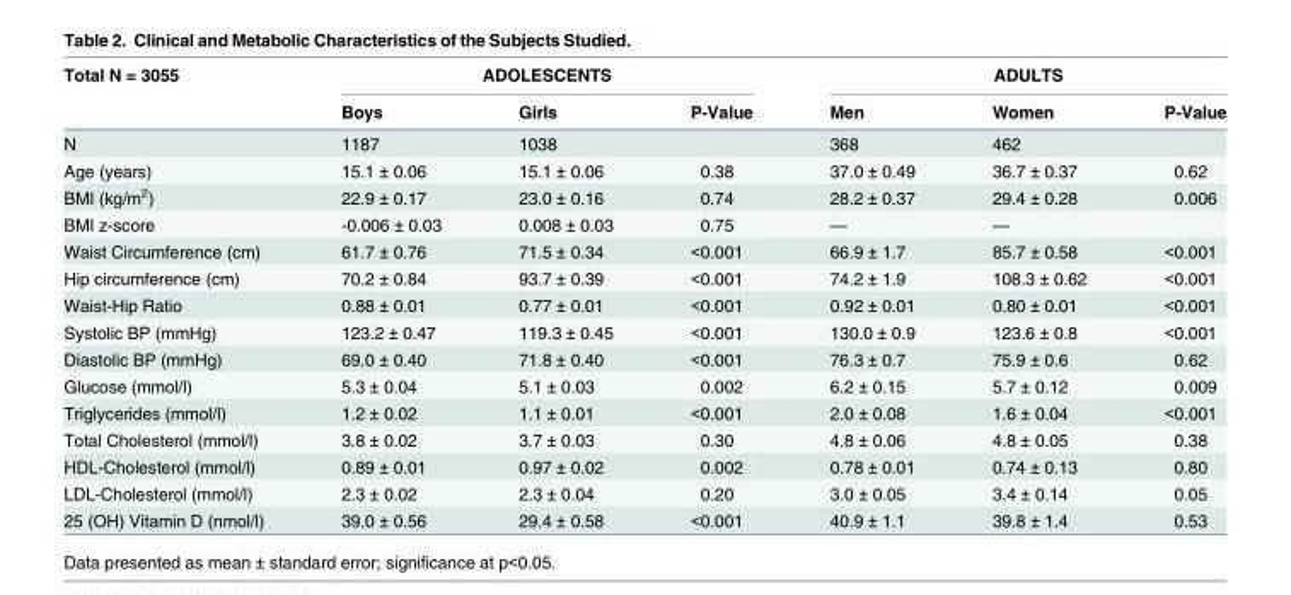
<table><thead><tr><td rowspan="2">Total N = 3055</td><td colspan="3">ADOLESCENTS</td><td colspan="3">ADULTS</td></tr><tr><td>Boys</td><td>Girls</td><td>P-Value</td><td>Men</td><td>Women</td><td>P-Value</td></tr></thead><tbody><tr><td>N</td><td>1187</td><td>1038</td><td></td><td>368</td><td>462</td><td></td></tr><tr><td>Age (years)</td><td>15.1 ± 0.06</td><td>15.1 ± 0.06</td><td>0.38</td><td>37.0 ± 0.49</td><td>36.7 ± 0.37</td><td>0.62</td></tr><tr><td>BMI (kg/m<sup>2</sup>)</td><td>22.9 ± 0.17</td><td>23.0 ± 0.16</td><td>0.74</td><td>28.2 ± 0.37</td><td>29.4 ± 0.28</td><td>0.006</td></tr><tr><td>BMI z-score</td><td>-0.006 ± 0.03</td><td>0.008 ± 0.03</td><td>0.75</td><td>—</td><td>—</td><td></td></tr><tr><td>Waist Circumference (cm)</td><td>61.7 ± 0.76</td><td>71.5 ± 0.34</td><td>&lt;0.001</td><td>66.9 ± 1.7</td><td>85.7 ± 0.58</td><td>&lt;0.001</td></tr><tr><td>Hip circumference (cm)</td><td>70.2 ± 0.84</td><td>93.7 ± 0.39</td><td>&lt;0.001</td><td>74.2 ± 1.9</td><td>108.3 ± 0.62</td><td>&lt;0.001</td></tr><tr><td>Waist-Hip Ratio</td><td>0.88 ± 0.01</td><td>0.77 ± 0.01</td><td>&lt;0.001</td><td>0.92 ± 0.01</td><td>0.80 ± 0.01</td><td>&lt;0.001</td></tr><tr><td>Systolic BP (mmHg)</td><td>123.2 ± 0.47</td><td>119.3 ± 0.45</td><td>&lt;0.001</td><td>130.0 ± 0.9</td><td>123.6 ± 0.8</td><td>&lt;0.001</td></tr><tr><td>Diastolic BP (mmHg)</td><td>69.0 ± 0.40</td><td>71.8 ± 0.40</td><td>&lt;0.001</td><td>76.3 ± 0.7</td><td>75.9 ± 0.6</td><td>0.62</td></tr><tr><td>Glucose (mmol/l)</td><td>5.3 ± 0.04</td><td>5.1 ± 0.03</td><td>0.002</td><td>6.2 ± 0.15</td><td>5.7 ± 0.12</td><td>0.009</td></tr><tr><td>Triglycerides (mmol/l)</td><td>1.2 ± 0.02</td><td>1.1 ± 0.01</td><td>&lt;0.001</td><td>2.0 ± 0.08</td><td>1.6 ± 0.04</td><td>&lt;0.001</td></tr><tr><td>Total Cholesterol (mmol/l)</td><td>3.8 ± 0.02</td><td>3.7 ± 0.03</td><td>0.30</td><td>4.8 ± 0.06</td><td>4.8 ± 0.05</td><td>0.38</td></tr><tr><td>HDL-Cholesterol (mmol/l)</td><td>0.89 ± 0.01</td><td>0.97 ± 0.02</td><td>0.002</td><td>0.78 ± 0.01</td><td>0.74 ± 0.13</td><td>0.80</td></tr><tr><td>LDL-Cholesterol (mmol/l)</td><td>2.3 ± 0.02</td><td>2.3 ± 0.04</td><td>0.20</td><td>3.0 ± 0.05</td><td>3.4 ± 0.14</td><td>0.05</td></tr><tr><td>25 (OH) Vitamin D (nmol/l)</td><td>39.0 ± 0.56</td><td>29.4 ± 0.58</td><td>&lt;0.001</td><td>40.9 ± 1.1</td><td>39.8 ± 1.4</td><td>0.53</td></tr></tbody></table>